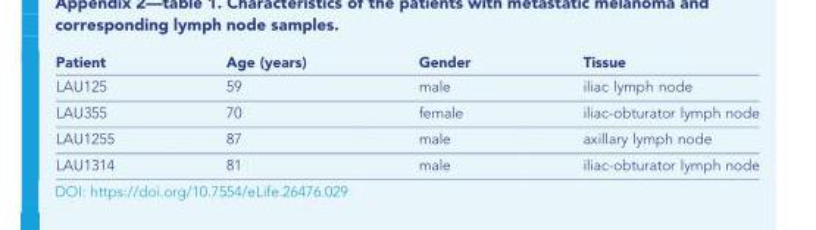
<table><thead><tr><td>Patient</td><td>Age (years)</td><td>Gender</td><td>Tissue</td></tr></thead><tbody><tr><td>LAU125</td><td>59</td><td>male</td><td>iliac lymph node</td></tr><tr><td>LAU355</td><td>70</td><td>female</td><td>iliac-obturator lymph node</td></tr><tr><td>LAU1255</td><td>87</td><td>male</td><td>axillary lymph node</td></tr><tr><td>LAU1314</td><td>81</td><td>male</td><td>iliac-obturator lymph node</td></tr></tbody></table>